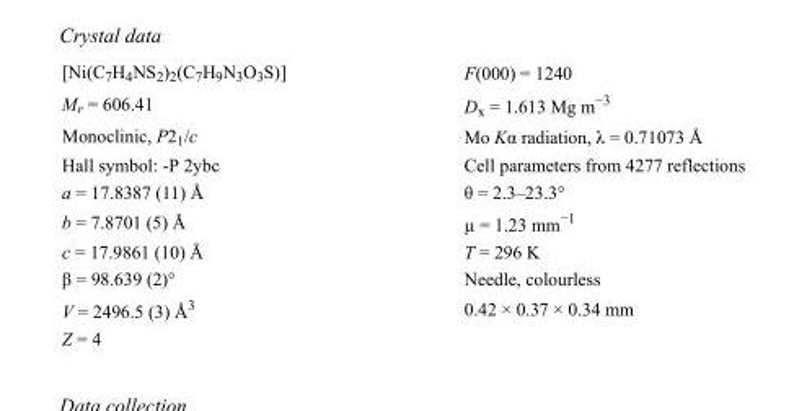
<table><tbody><tr><td>[Ni(C<sub>7</sub>H<sub>4</sub>NS<sub>2</sub>)<sub>2</sub>(C<sub>7</sub>H<sub>9</sub>N<sub>3</sub>O<sub>3</sub>S)]</td><td>F(000) = 1240</td></tr><tr><td>M<sub>r</sub> = 606.41</td><td>D<sub>x</sub> = 1.613 Mg m<sup>−3</sup></td></tr><tr><td>Monoclinic, P2<sub>1</sub>/c</td><td>Mo Kα radiation, λ = 0.71073 Å</td></tr><tr><td>Hall symbol: -P 2ybc</td><td>Cell parameters from 4277 reflections</td></tr><tr><td>a = 17.8387 (11) Å</td><td>θ = 2.3–23.3°</td></tr><tr><td>b = 7.8701 (5) Å</td><td>µ = 1.23 mm<sup>−1</sup></td></tr><tr><td>c = 17.9861 (10) Å</td><td>T = 296 K</td></tr><tr><td>β = 98.639 (2)°</td><td>Needle, colourless</td></tr><tr><td>V = 2496.5 (3) Å<sup>3</sup></td><td>0.42 × 0.37 × 0.34 mm</td></tr><tr><td>Z = 4</td><td></td></tr></tbody></table>